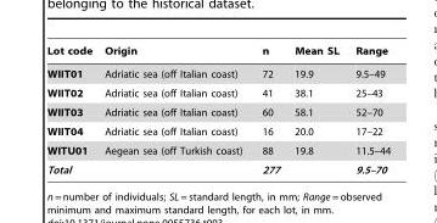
<table><thead><tr><td>Lot code</td><td>Origin</td><td>n</td><td>Mean SL</td><td>Range</td></tr></thead><tbody><tr><td>WIIT01</td><td>Adriatic sea (off Italian coast)</td><td>72</td><td>19.9</td><td>9.5–49</td></tr><tr><td>WIIT02</td><td>Adriatic sea (off Italian coast)</td><td>41</td><td>38.1</td><td>25–43</td></tr><tr><td>WIIT03</td><td>Adriatic sea (off Italian coast)</td><td>60</td><td>58.1</td><td>52–70</td></tr><tr><td>WIIT04</td><td>Adriatic sea (off Italian coast)</td><td>16</td><td>20.0</td><td>17–22</td></tr><tr><td>WITU01</td><td>Aegean sea (off Turkish coast)</td><td>88</td><td>19.8</td><td>11.5–44</td></tr><tr><td>Total</td><td></td><td>277</td><td></td><td>9.5–70</td></tr></tbody></table>